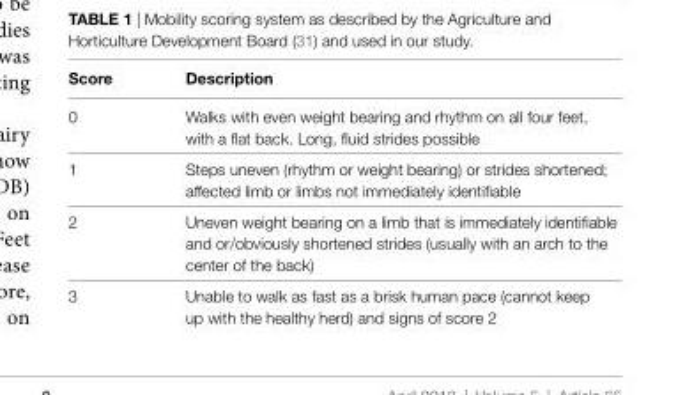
<table><thead><tr><td>score</td><td>Description</td></tr></thead><tbody><tr><td>0</td><td>Walks with even weight bearing and rhythm on all four feet, with a flat back. Long, fluid strides possible</td></tr><tr><td>1</td><td>Steps uneven (rhythm or weight bearing) or strides shortened; affected limb or limbs not immediately identifiable</td></tr><tr><td>2</td><td>Uneven weight bearing on a limb that is immediately identifiable and or/obviously shortened strides (usually with an arch to the center of the back)</td></tr><tr><td>3</td><td>Unable to walk as fast as a brisk human pace (cannot keep up with the healthy herd) and signs of score 2</td></tr></tbody></table>